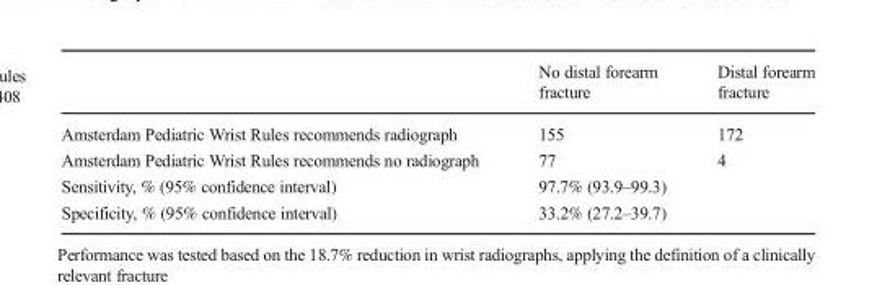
<table><thead><tr><td></td><td>No distal forearm fracture</td><td>Distal forearm fracture</td></tr></thead><tbody><tr><td>Amsterdam Pediatric Wrist Rules recommends radiograph</td><td>155</td><td>172</td></tr><tr><td>Amsterdam Pediatric Wrist Rules recommends no radiograph</td><td>77</td><td>4</td></tr><tr><td>Sensitivity, % (95% confidence interval)</td><td colspan="2">97.7% (93.9–99.3)</td></tr><tr><td>Specificity, % (95% confidence interval)</td><td colspan="2">33.2% (27.2–39.7)</td></tr></tbody></table>